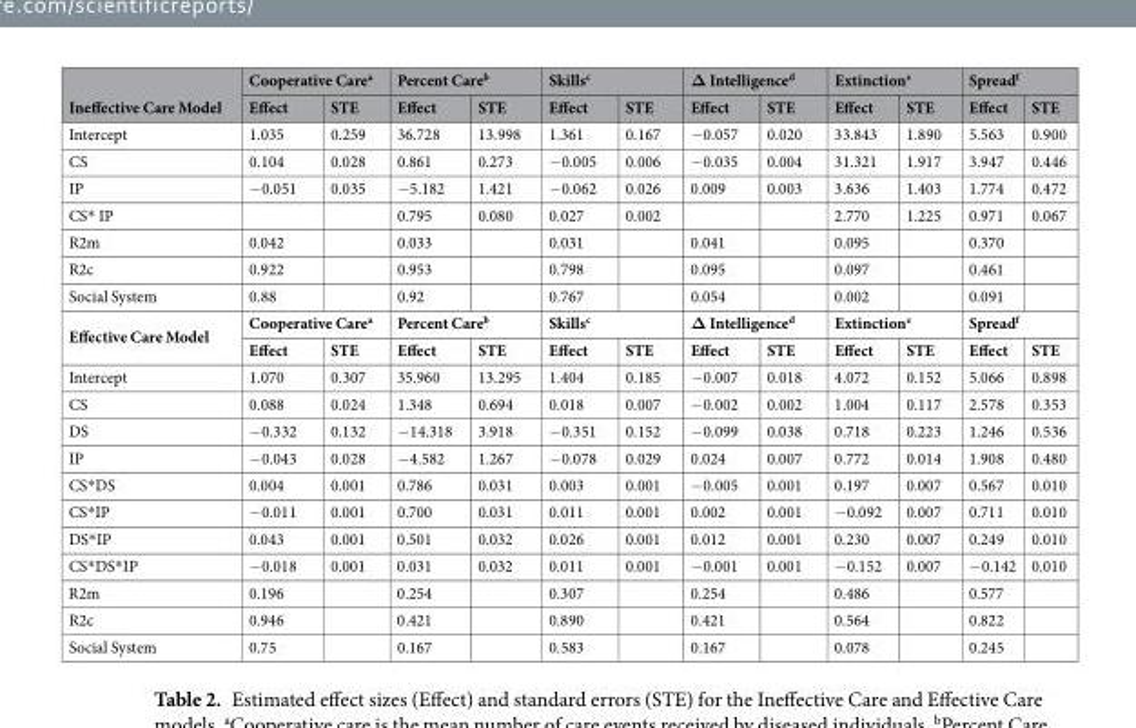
<table><thead><tr><td rowspan="2">Ineffective Care Model</td><td colspan="2">Cooperative Care<sup>a</sup></td><td colspan="2">Percent Care<sup>b</sup></td><td colspan="2">Skills<sup>c</sup></td><td colspan="2">Δ Intelligence<sup>d</sup></td><td colspan="2">Extinction<sup>e</sup></td><td colspan="2">Spread<sup>f</sup></td></tr><tr><td>Effect</td><td>STE</td><td>Effect</td><td>STE</td><td>Effect</td><td>STE</td><td>Effect</td><td>STE</td><td>Effect</td><td>STE</td><td>Effect</td><td>STE</td></tr></thead><tbody><tr><td>Intercept</td><td>1.035</td><td>0.259</td><td>36.728</td><td>13.998</td><td>1.361</td><td>0.167</td><td>−0.057</td><td>0.020</td><td>33.843</td><td>1.890</td><td>5.563</td><td>0.900</td></tr><tr><td>CS</td><td>0.104</td><td>0.028</td><td>0.861</td><td>0.273</td><td>−0.005</td><td>0.006</td><td>−0.035</td><td>0.004</td><td>31.321</td><td>1.917</td><td>3.947</td><td>0.446</td></tr><tr><td>IP</td><td>−0.051</td><td>0.035</td><td>−5.182</td><td>1.421</td><td>−0.062</td><td>0.026</td><td>0.009</td><td>0.003</td><td>3.636</td><td>1.403</td><td>1.774</td><td>0.472</td></tr><tr><td>CS* IP</td><td></td><td></td><td>0.795</td><td>0.080</td><td>0.027</td><td>0.002</td><td></td><td></td><td>2.770</td><td>1.225</td><td>0.971</td><td>0.067</td></tr><tr><td>R2m</td><td>0.042</td><td></td><td>0.033</td><td></td><td>0.031</td><td></td><td>0.041</td><td></td><td>0.095</td><td></td><td>0.370</td><td></td></tr><tr><td>R2c</td><td>0.922</td><td></td><td>0.953</td><td></td><td>0.798</td><td></td><td>0.095</td><td></td><td>0.097</td><td></td><td>0.461</td><td></td></tr><tr><td>Social System</td><td>0.88</td><td></td><td>0.92</td><td></td><td>0.767</td><td></td><td>0.054</td><td></td><td>0.002</td><td></td><td>0.091</td><td></td></tr><tr><td rowspan="2">Effective Care Model</td><td colspan="2">Cooperative Care<sup>a</sup></td><td colspan="2">Percent Care<sup>b</sup></td><td colspan="2">Skills<sup>c</sup></td><td colspan="2">Δ Intelligence<sup>d</sup></td><td colspan="2">Extinction<sup>e</sup></td><td colspan="2">Spread<sup>f</sup></td></tr><tr><td>Effect</td><td>STE</td><td>Effect</td><td>STE</td><td>Effect</td><td>STE</td><td>Effect</td><td>STE</td><td>Effect</td><td>STE</td><td>Effect</td><td>STE</td></tr><tr><td>Intercept</td><td>1.070</td><td>0.307</td><td>35.960</td><td>13.295</td><td>1.404</td><td>0.185</td><td>−0.007</td><td>0.018</td><td>4.072</td><td>0.152</td><td>5.066</td><td>0.898</td></tr><tr><td>CS</td><td>0.088</td><td>0.024</td><td>1.348</td><td>0.694</td><td>0.018</td><td>0.007</td><td>−0.002</td><td>0.002</td><td>1.004</td><td>0.117</td><td>2.578</td><td>0.353</td></tr><tr><td>DS</td><td>−0.332</td><td>0.132</td><td>−14.318</td><td>3.918</td><td>−0.351</td><td>0.152</td><td>−0.099</td><td>0.038</td><td>0.718</td><td>0.223</td><td>1.246</td><td>0.536</td></tr><tr><td>IP</td><td>−0.043</td><td>0.028</td><td>−4.582</td><td>1.267</td><td>−0.078</td><td>0.029</td><td>0.024</td><td>0.007</td><td>0.772</td><td>0.014</td><td>1.908</td><td>0.480</td></tr><tr><td>CS*DS</td><td>0.004</td><td>0.001</td><td>0.786</td><td>0.031</td><td>0.003</td><td>0.001</td><td>−0.005</td><td>0.001</td><td>0.197</td><td>0.007</td><td>0.567</td><td>0.010</td></tr><tr><td>CS*IP</td><td>−0.011</td><td>0.001</td><td>0.700</td><td>0.031</td><td>0.011</td><td>0.001</td><td>0.002</td><td>0.001</td><td>−0.092</td><td>0.007</td><td>0.711</td><td>0.010</td></tr><tr><td>DS*IP</td><td>0.043</td><td>0.001</td><td>0.501</td><td>0.032</td><td>0.026</td><td>0.001</td><td>0.012</td><td>0.001</td><td>0.230</td><td>0.007</td><td>0.249</td><td>0.010</td></tr><tr><td>CS*DS*IP</td><td>−0.018</td><td>0.001</td><td>0.031</td><td>0.032</td><td>0.011</td><td>0.001</td><td>−0.001</td><td>0.001</td><td>−0.152</td><td>0.007</td><td>−0.142</td><td>0.010</td></tr><tr><td>R2m</td><td>0.196</td><td></td><td>0.254</td><td></td><td>0.307</td><td></td><td>0.254</td><td></td><td>0.486</td><td></td><td>0.577</td><td></td></tr><tr><td>R2c</td><td>0.946</td><td></td><td>0.421</td><td></td><td>0.890</td><td></td><td>0.421</td><td></td><td>0.564</td><td></td><td>0.822</td><td></td></tr><tr><td>Social System</td><td>0.75</td><td></td><td>0.167</td><td></td><td>0.583</td><td></td><td>0.167</td><td></td><td>0.078</td><td></td><td>0.245</td><td></td></tr></tbody></table>